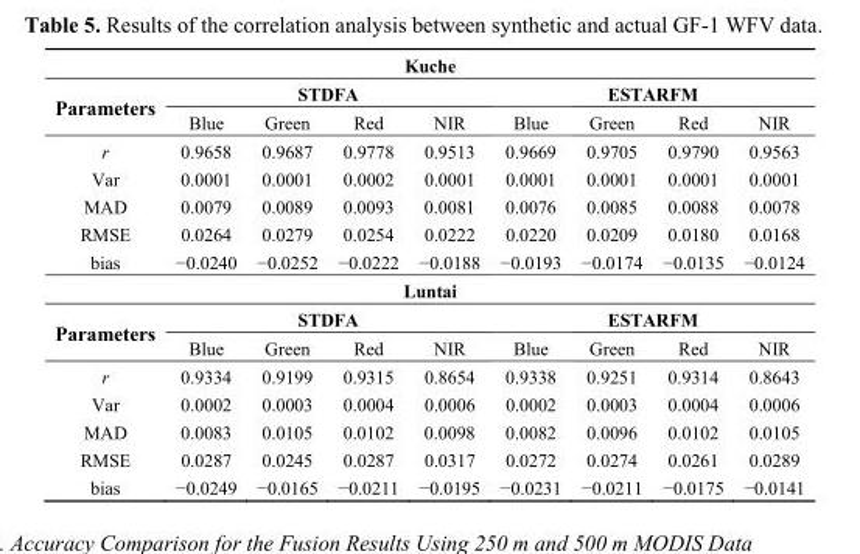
<table><thead><tr><td colspan="9">Kuche</td></tr><tr><td rowspan="2">Parameters</td><td colspan="4">STDFA</td><td colspan="4">ESTARFM</td></tr><tr><td>Blue</td><td>Green</td><td>Red</td><td>NIR</td><td>Blue</td><td>Green</td><td>Red</td><td>NIR</td></tr></thead><tbody><tr><td>r</td><td>0.9658</td><td>0.9687</td><td>0.9778</td><td>0.9513</td><td>0.9669</td><td>0.9705</td><td>0.9790</td><td>0.9563</td></tr><tr><td>Var</td><td>0.0001</td><td>0.0001</td><td>0.0002</td><td>0.0001</td><td>0.0001</td><td>0.0001</td><td>0.0001</td><td>0.0001</td></tr><tr><td>MAD</td><td>0.0079</td><td>0.0089</td><td>0.0093</td><td>0.0081</td><td>0.0076</td><td>0.0085</td><td>0.0088</td><td>0.0078</td></tr><tr><td>RMSE</td><td>0.0264</td><td>0.0279</td><td>0.0254</td><td>0.0222</td><td>0.0220</td><td>0.0209</td><td>0.0180</td><td>0.0168</td></tr><tr><td>bias</td><td>−0.0240</td><td>−0.0252</td><td>−0.0222</td><td>−0.0188</td><td>−0.0193</td><td>−0.0174</td><td>−0.0135</td><td>−0.0124</td></tr><tr><td colspan="9">Luntai</td></tr><tr><td rowspan="2">Parameters</td><td colspan="4">STDFA</td><td colspan="4">ESTARFM</td></tr><tr><td>Blue</td><td>Green</td><td>Red</td><td>NIR</td><td>Blue</td><td>Green</td><td>Red</td><td>NIR</td></tr><tr><td>r</td><td>0.9334</td><td>0.9199</td><td>0.9315</td><td>0.8654</td><td>0.9338</td><td>0.9251</td><td>0.9314</td><td>0.8643</td></tr><tr><td>Var</td><td>0.0002</td><td>0.0003</td><td>0.0004</td><td>0.0006</td><td>0.0002</td><td>0.0003</td><td>0.0004</td><td>0.0006</td></tr><tr><td>MAD</td><td>0.0083</td><td>0.0105</td><td>0.0102</td><td>0.0098</td><td>0.0082</td><td>0.0096</td><td>0.0102</td><td>0.0105</td></tr><tr><td>RMSE</td><td>0.0287</td><td>0.0245</td><td>0.0287</td><td>0.0317</td><td>0.0272</td><td>0.0274</td><td>0.0261</td><td>0.0289</td></tr><tr><td>bias</td><td>−0.0249</td><td>−0.0165</td><td>−0.0211</td><td>−0.0195</td><td>−0.0231</td><td>−0.0211</td><td>−0.0175</td><td>−0.0141</td></tr></tbody></table>